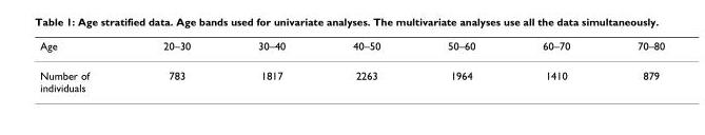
<table><thead><tr><td>Age</td><td>20–30</td><td>30–40</td><td>40–50</td><td>50–60</td><td>60–70</td><td>70–80</td></tr></thead><tbody><tr><td>Number of individuals</td><td>783</td><td>1817</td><td>2263</td><td>1964</td><td>1410</td><td>879</td></tr></tbody></table>